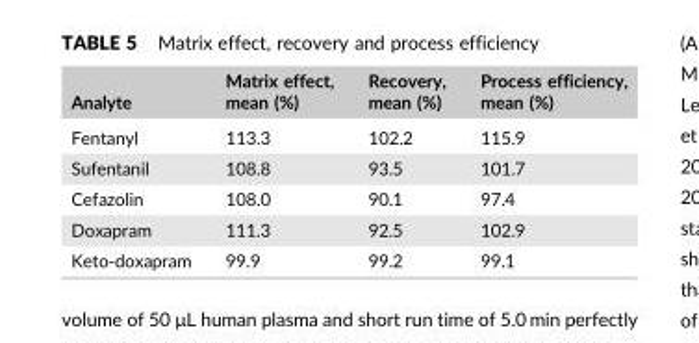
<table><thead><tr><td>Analyte</td><td>Matrix effect, mean (%)</td><td>Recovery, mean (%)</td><td>Process efficiency, mean (%)</td></tr></thead><tbody><tr><td>Fentanyl</td><td>113.3</td><td>102.2</td><td>115.9</td></tr><tr><td>Sufentanil</td><td>108.8</td><td>93.5</td><td>101.7</td></tr><tr><td>Cefazolin</td><td>108.0</td><td>90.1</td><td>97.4</td></tr><tr><td>Doxapram</td><td>111.3</td><td>92.5</td><td>102.9</td></tr><tr><td>Keto‐doxapram</td><td>99.9</td><td>99.2</td><td>99.1</td></tr></tbody></table>